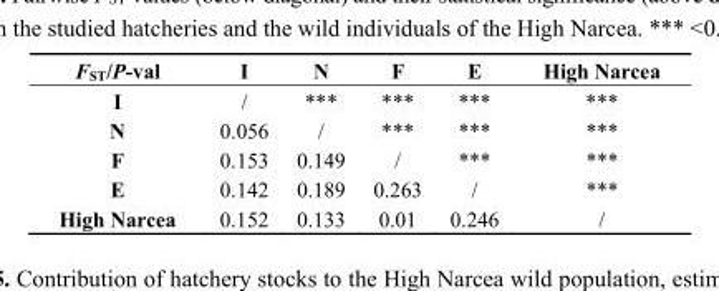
<table><thead><tr><td>F<sub>ST</sub>/P-val</td><td>I</td><td>N</td><td>F</td><td>E</td><td>High Narcea</td></tr></thead><tbody><tr><td>I</td><td>/</td><td>***</td><td>***</td><td>***</td><td>***</td></tr><tr><td>N</td><td>0.056</td><td>/</td><td>***</td><td>***</td><td>***</td></tr><tr><td>F</td><td>0.153</td><td>0.149</td><td>/</td><td>***</td><td>***</td></tr><tr><td>E</td><td>0.142</td><td>0.189</td><td>0.263</td><td>/</td><td>***</td></tr><tr><td>High Narcea</td><td>0.152</td><td>0.133</td><td>0.01</td><td>0.246</td><td>/</td></tr></tbody></table>